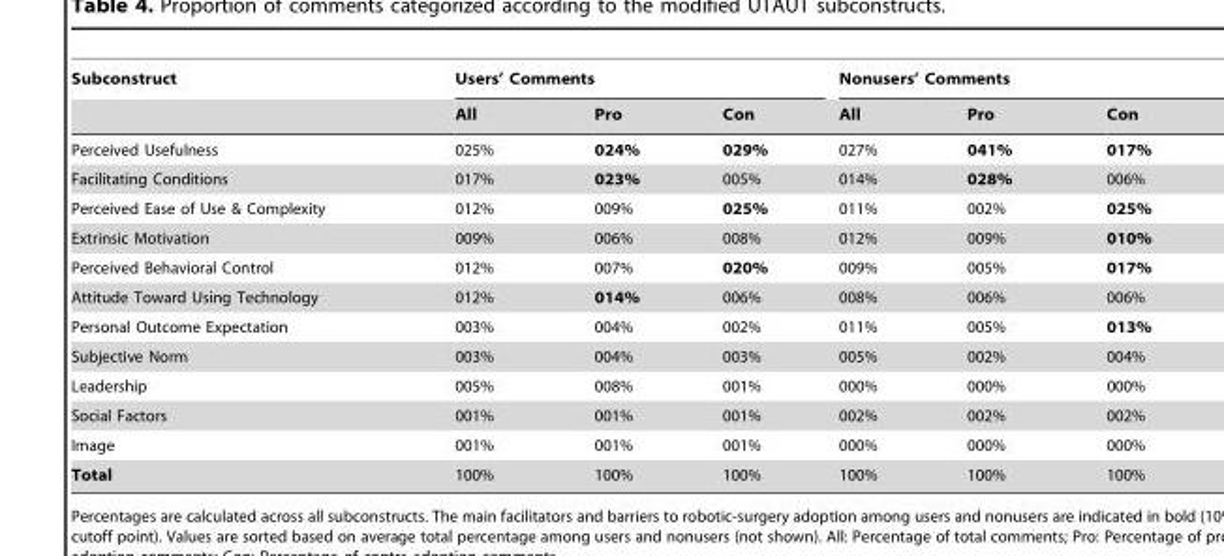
<table><thead><tr><td rowspan="2">Subconstruct</td><td colspan="3">Users’ Comments</td><td colspan="3">Nonusers’ Comments</td></tr><tr><td>All</td><td>Pro</td><td>Con</td><td>All</td><td>Pro</td><td>Con</td></tr></thead><tbody><tr><td>Perceived Usefulness</td><td>025%</td><td>024%</td><td>029%</td><td>027%</td><td>041%</td><td>017%</td></tr><tr><td>Facilitating Conditions</td><td>017%</td><td>023%</td><td>005%</td><td>014%</td><td>028%</td><td>006%</td></tr><tr><td>Perceived Ease of Use &amp; Complexity</td><td>012%</td><td>009%</td><td>025%</td><td>011%</td><td>002%</td><td>025%</td></tr><tr><td>Extrinsic Motivation</td><td>009%</td><td>006%</td><td>008%</td><td>012%</td><td>009%</td><td>010%</td></tr><tr><td>Perceived Behavioral Control</td><td>012%</td><td>007%</td><td>020%</td><td>009%</td><td>005%</td><td>017%</td></tr><tr><td>Attitude Toward Using Technology</td><td>012%</td><td>014%</td><td>006%</td><td>008%</td><td>006%</td><td>006%</td></tr><tr><td>Personal Outcome Expectation</td><td>003%</td><td>004%</td><td>002%</td><td>011%</td><td>005%</td><td>013%</td></tr><tr><td>Subjective Norm</td><td>003%</td><td>004%</td><td>003%</td><td>005%</td><td>002%</td><td>004%</td></tr><tr><td>Leadership</td><td>005%</td><td>008%</td><td>001%</td><td>000%</td><td>000%</td><td>000%</td></tr><tr><td>Social Factors</td><td>001%</td><td>001%</td><td>001%</td><td>002%</td><td>002%</td><td>002%</td></tr><tr><td>Image</td><td>001%</td><td>001%</td><td>001%</td><td>000%</td><td>000%</td><td>000%</td></tr><tr><td>Total</td><td>100%</td><td>100%</td><td>100%</td><td>100%</td><td>100%</td><td>100%</td></tr></tbody></table>